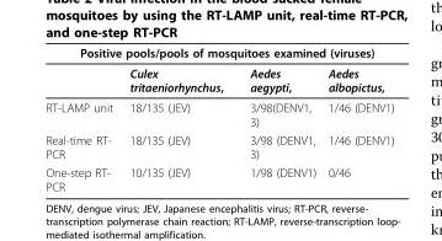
<table><thead><tr><td colspan="4">Positive pools/pools of mosquitoes examined (viruses)</td></tr><tr><td></td><td>Culex tritaeniorhynchus,</td><td>Aedes aegypti,</td><td>Aedes albopictus,</td></tr></thead><tbody><tr><td>RT-LAMP unit</td><td>18/135 (JEV)</td><td>3/98(DENV1, 3)</td><td>1/46 (DENV1)</td></tr><tr><td>Real-time RT- PCR</td><td>18/135 (JEV)</td><td>3/98 (DENV1, 3)</td><td>1/46 (DENV1)</td></tr><tr><td>One-step RT- PCR</td><td>10/135 (JEV)</td><td>1/98 (DENV1)</td><td>0/46</td></tr></tbody></table>